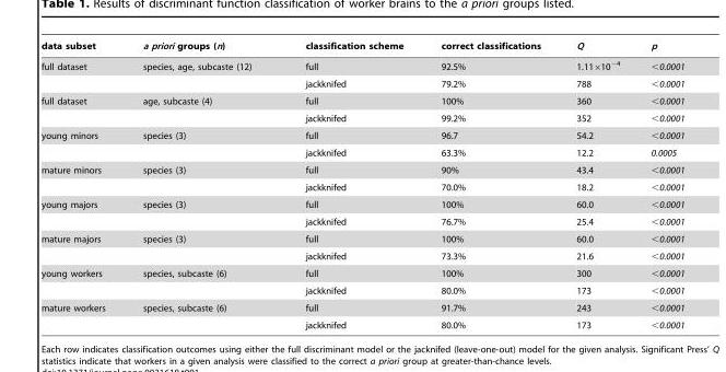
<table><thead><tr><td>data subset</td><td>a priori groups (n)</td><td>classification scheme</td><td>correct classifications</td><td>Q</td><td>p</td></tr></thead><tbody><tr><td rowspan="2">full dataset</td><td>species, age, subcaste (12)</td><td>full</td><td>92.5%</td><td>1.11×10<sup>−4</sup></td><td>&lt;0.0001</td></tr><tr><td></td><td>jackknifed</td><td>79.2%</td><td>788</td><td>&lt;0.0001</td></tr><tr><td rowspan="2">full dataset</td><td>age, subcaste (4)</td><td>full</td><td>100%</td><td>360</td><td>&lt;0.0001</td></tr><tr><td></td><td>jackknifed</td><td>99.2%</td><td>352</td><td>&lt;0.0001</td></tr><tr><td rowspan="2">young minors</td><td>species (3)</td><td>full</td><td>96.7</td><td>54.2</td><td>&lt;0.0001</td></tr><tr><td></td><td>jackknifed</td><td>63.3%</td><td>12.2</td><td>0.0005</td></tr><tr><td rowspan="2">mature minors</td><td>species (3)</td><td>full</td><td>90%</td><td>43.4</td><td>&lt;0.0001</td></tr><tr><td></td><td>jackknifed</td><td>70.0%</td><td>18.2</td><td>&lt;0.0001</td></tr><tr><td rowspan="2">young majors</td><td>species (3)</td><td>full</td><td>100%</td><td>60.0</td><td>&lt;0.0001</td></tr><tr><td></td><td>jackknifed</td><td>76.7%</td><td>25.4</td><td>&lt;0.0001</td></tr><tr><td rowspan="2">mature majors</td><td>species (3)</td><td>full</td><td>100%</td><td>60.0</td><td>&lt;0.0001</td></tr><tr><td></td><td>jackknifed</td><td>73.3%</td><td>21.6</td><td>&lt;0.0001</td></tr><tr><td rowspan="2">young workers</td><td>species, subcaste (6)</td><td>full</td><td>100%</td><td>300</td><td>&lt;0.0001</td></tr><tr><td></td><td>jackknifed</td><td>80.0%</td><td>173</td><td>&lt;0.0001</td></tr><tr><td rowspan="2">mature workers</td><td>species, subcaste (6)</td><td>full</td><td>91.7%</td><td>243</td><td>&lt;0.0001</td></tr><tr><td></td><td>jackknifed</td><td>80.0%</td><td>173</td><td>&lt;0.0001</td></tr></tbody></table>